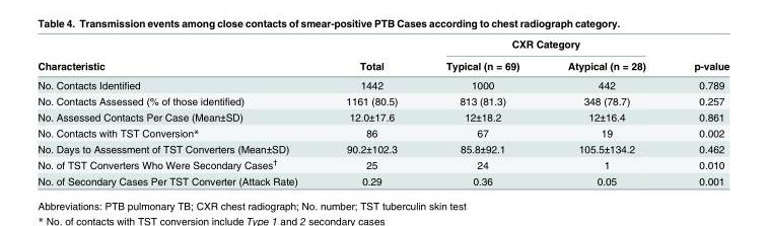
<table><thead><tr><td rowspan="2">Characteristic</td><td rowspan="2">Total</td><td colspan="2">CXR Category</td><td rowspan="2">p-value</td></tr><tr><td>Typical (n = 69)</td><td>Atypical (n = 28)</td></tr></thead><tbody><tr><td>No. Contacts Identified</td><td>1442</td><td>1000</td><td>442</td><td>0.789</td></tr><tr><td>No. Contacts Assessed (% of those identified)</td><td>1161 (80.5)</td><td>813 (81.3)</td><td>348 (78.7)</td><td>0.257</td></tr><tr><td>No. Assessed Contacts Per Case (Mean±SD)</td><td>12.0±17.6</td><td>12±18.2</td><td>12±16.4</td><td>0.861</td></tr><tr><td>No. Contacts with TST Conversion*</td><td>86</td><td>67</td><td>19</td><td>0.002</td></tr><tr><td>No. Days to Assessment of TST Converters (Mean±SD)</td><td>90.2±102.3</td><td>85.8±92.1</td><td>105.5±134.2</td><td>0.462</td></tr><tr><td>No. of TST Converters Who Were Secondary Cases<sup>†</sup></td><td>25</td><td>24</td><td>1</td><td>0.010</td></tr><tr><td>No. of Secondary Cases Per TST Converter (Attack Rate)</td><td>0.29</td><td>0.36</td><td>0.05</td><td>0.001</td></tr></tbody></table>